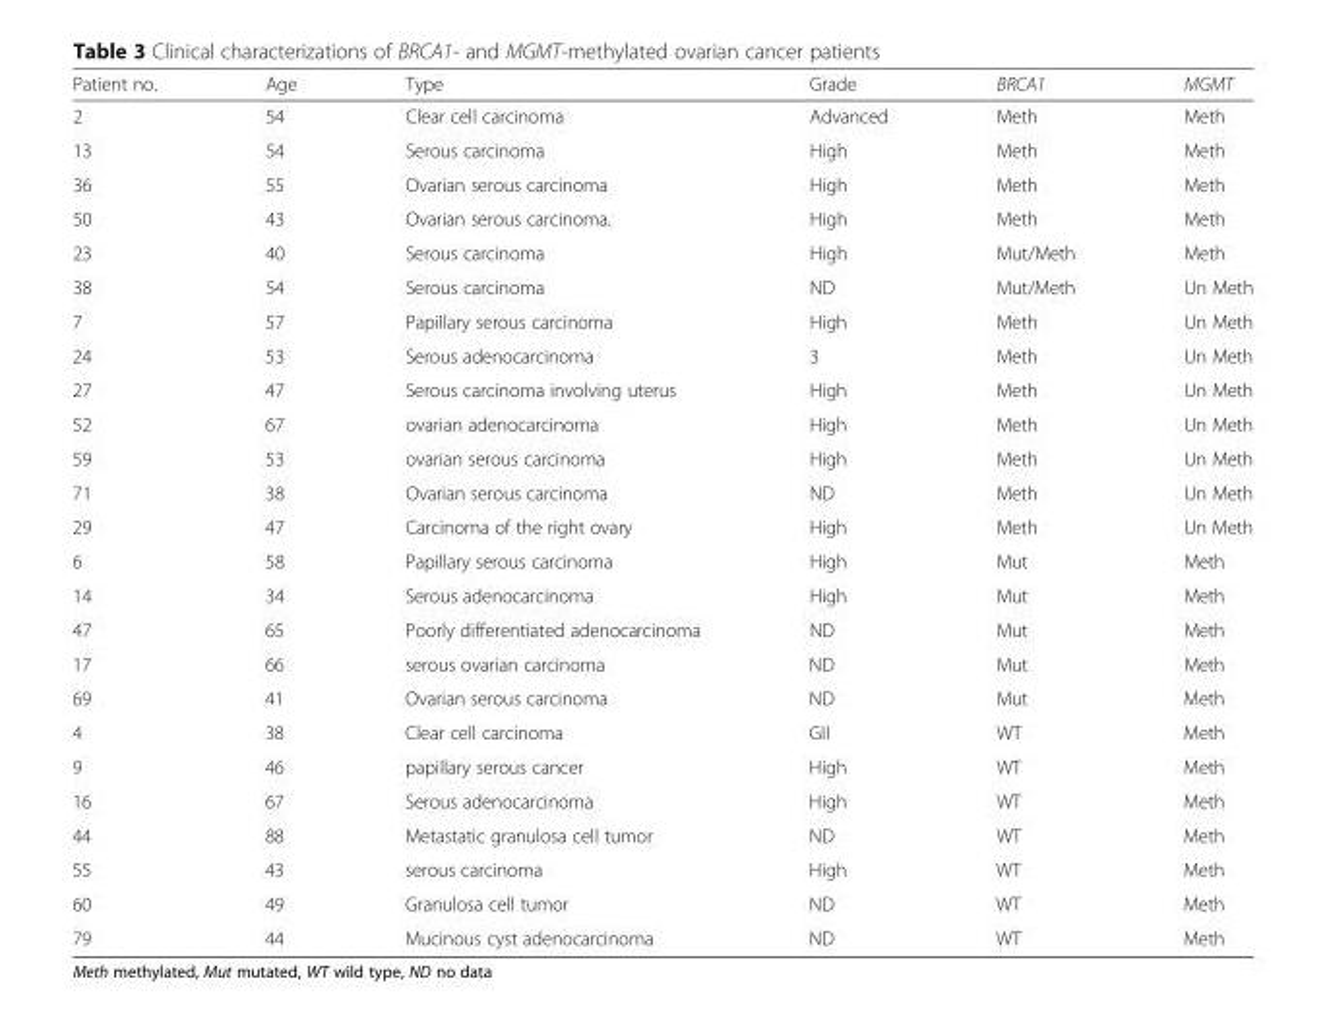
<table><thead><tr><td>Patient no.</td><td>Age</td><td>Type</td><td>Grade</td><td>BRCA1</td><td>MGMT</td></tr></thead><tbody><tr><td>2</td><td>54</td><td>Clear cell carcinoma</td><td>Advanced</td><td>Meth</td><td>Meth</td></tr><tr><td>13</td><td>54</td><td>Serous carcinoma</td><td>High</td><td>Meth</td><td>Meth</td></tr><tr><td>36</td><td>55</td><td>Ovarian serous carcinoma</td><td>High</td><td>Meth</td><td>Meth</td></tr><tr><td>50</td><td>43</td><td>Ovarian serous carcinoma.</td><td>High</td><td>Meth</td><td>Meth</td></tr><tr><td>23</td><td>40</td><td>Serous carcinoma</td><td>High</td><td>Mut/Meth</td><td>Meth</td></tr><tr><td>38</td><td>54</td><td>Serous carcinoma</td><td>ND</td><td>Mut/Meth</td><td>Un Meth</td></tr><tr><td>7</td><td>57</td><td>Papillary serous carcinoma</td><td>High</td><td>Meth</td><td>Un Meth</td></tr><tr><td>24</td><td>53</td><td>Serous adenocarcinoma</td><td>3</td><td>Meth</td><td>Un Meth</td></tr><tr><td>27</td><td>47</td><td>Serous carcinoma involving uterus</td><td>High</td><td>Meth</td><td>Un Meth</td></tr><tr><td>52</td><td>67</td><td>ovarian adenocarcinoma</td><td>High</td><td>Meth</td><td>Un Meth</td></tr><tr><td>59</td><td>53</td><td>ovarian serous carcinoma</td><td>High</td><td>Meth</td><td>Un Meth</td></tr><tr><td>71</td><td>38</td><td>Ovarian serous carcinoma</td><td>ND</td><td>Meth</td><td>Un Meth</td></tr><tr><td>29</td><td>47</td><td>Carcinoma of the right ovary</td><td>High</td><td>Meth</td><td>Un Meth</td></tr><tr><td>6</td><td>58</td><td>Papillary serous carcinoma</td><td>High</td><td>Mut</td><td>Meth</td></tr><tr><td>14</td><td>34</td><td>Serous adenocarcinoma</td><td>High</td><td>Mut</td><td>Meth</td></tr><tr><td>47</td><td>65</td><td>Poorly differentiated adenocarcinoma</td><td>ND</td><td>Mut</td><td>Meth</td></tr><tr><td>17</td><td>66</td><td>serous ovarian carcinoma</td><td>ND</td><td>Mut</td><td>Meth</td></tr><tr><td>69</td><td>41</td><td>Ovarian serous carcinoma</td><td>ND</td><td>Mut</td><td>Meth</td></tr><tr><td>4</td><td>38</td><td>Clear cell carcinoma</td><td>GII</td><td>WT</td><td>Meth</td></tr><tr><td>9</td><td>46</td><td>papillary serous cancer</td><td>High</td><td>WT</td><td>Meth</td></tr><tr><td>16</td><td>67</td><td>Serous adenocarcinoma</td><td>High</td><td>WT</td><td>Meth</td></tr><tr><td>44</td><td>88</td><td>Metastatic granulosa cell tumor</td><td>ND</td><td>WT</td><td>Meth</td></tr><tr><td>55</td><td>43</td><td>serous carcinoma</td><td>High</td><td>WT</td><td>Meth</td></tr><tr><td>60</td><td>49</td><td>Granulosa cell tumor</td><td>ND</td><td>WT</td><td>Meth</td></tr><tr><td>79</td><td>44</td><td>Mucinous cyst adenocarcinoma</td><td>ND</td><td>WT</td><td>Meth</td></tr></tbody></table>